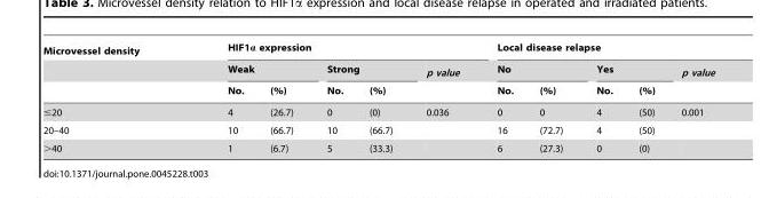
<table><thead><tr><td rowspan="3">Microvessel density</td><td colspan="5">HIF1α expression</td><td colspan="5">Local disease relapse</td></tr><tr><td colspan="2">Weak</td><td colspan="2">Strong</td><td rowspan="2">p value</td><td colspan="2">No</td><td colspan="2">Yes</td><td rowspan="2">p value</td></tr><tr><td>No.</td><td>(%)</td><td>No.</td><td>(%)</td><td>No.</td><td>(%)</td><td>No.</td><td>(%)</td></tr></thead><tbody><tr><td>≤20</td><td>4</td><td>(26.7)</td><td>0</td><td>(0)</td><td>0.036</td><td>0</td><td>0</td><td>4</td><td>(50)</td><td>0.001</td></tr><tr><td>20–40</td><td>10</td><td>(66.7)</td><td>10</td><td>(66.7)</td><td></td><td>16</td><td>(72.7)</td><td>4</td><td>(50)</td><td></td></tr><tr><td>&gt;40</td><td>1</td><td>(6.7)</td><td>5</td><td>(33.3)</td><td></td><td>6</td><td>(27.3)</td><td>0</td><td>(0)</td><td></td></tr></tbody></table>